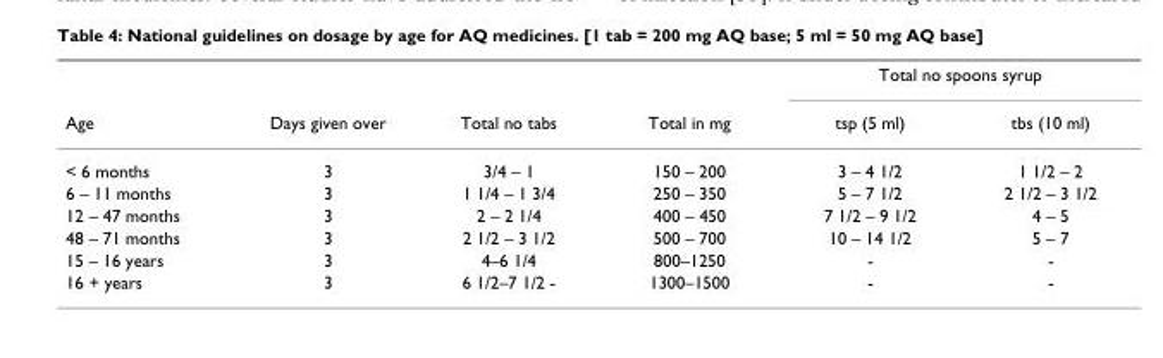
<table><thead><tr><td rowspan="2">Age</td><td rowspan="2">Days given over</td><td rowspan="2">Total no tabs</td><td rowspan="2">Total in mg</td><td colspan="2">Total no spoons syrup</td></tr><tr><td>tsp (5 ml)</td><td>tbs (10 ml)</td></tr></thead><tbody><tr><td>&lt; 6 months</td><td>3</td><td>3/4 – 1</td><td>150 – 200</td><td>3 – 4 1/2</td><td>1 1/2 – 2</td></tr><tr><td>6 – 11 months</td><td>3</td><td>1 1/4 – 1 3/4</td><td>250 – 350</td><td>5 – 7 1/2</td><td>2 1/2 – 3 1/2</td></tr><tr><td>12 – 47 months</td><td>3</td><td>2 – 2 1/4</td><td>400 – 450</td><td>7 1/2 – 9 1/2</td><td>4 – 5</td></tr><tr><td>48 – 71 months</td><td>3</td><td>2 1/2 – 3 1/2</td><td>500 – 700</td><td>10 – 14 1/2</td><td>5 – 7</td></tr><tr><td>15 – 16 years</td><td>3</td><td>4–6 1/4</td><td>800–1250</td><td>-</td><td>-</td></tr><tr><td>16 + years</td><td>3</td><td>6 1/2–7 1/2 -</td><td>1300–1500</td><td>-</td><td>-</td></tr></tbody></table>